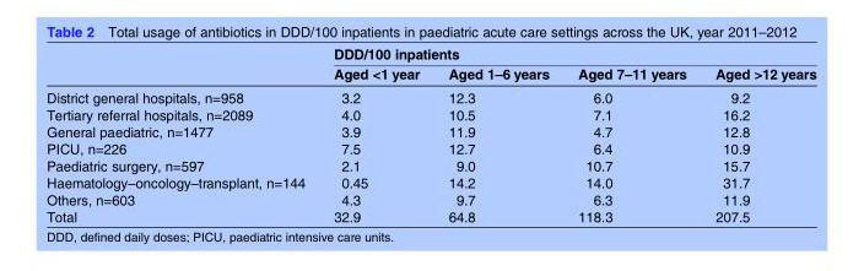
<table><thead><tr><td rowspan="2"></td><td colspan="4">DDD/100 inpatients</td></tr><tr><td>Aged &lt;1 year</td><td>Aged 1–6 years</td><td>Aged 7–11 years</td><td>Aged &gt;12 years</td></tr></thead><tbody><tr><td>District general hospitals, n=958</td><td>3.2</td><td>12.3</td><td>6.0</td><td>9.2</td></tr><tr><td>Tertiary referral hospitals, n=2089</td><td>4.0</td><td>10.5</td><td>7.1</td><td>16.2</td></tr><tr><td>General paediatric, n=1477</td><td>3.9</td><td>11.9</td><td>4.7</td><td>12.8</td></tr><tr><td>PICU, n=226</td><td>7.5</td><td>12.7</td><td>6.4</td><td>10.9</td></tr><tr><td>Paediatric surgery, n=597</td><td>2.1</td><td>9.0</td><td>10.7</td><td>15.7</td></tr><tr><td>Haematology–oncology–transplant, n=144</td><td>0.45</td><td>14.2</td><td>14.0</td><td>31.7</td></tr><tr><td>Others, n=603</td><td>4.3</td><td>9.7</td><td>6.3</td><td>11.9</td></tr><tr><td>Total</td><td>32.9</td><td>64.8</td><td>118.3</td><td>207.5</td></tr></tbody></table>